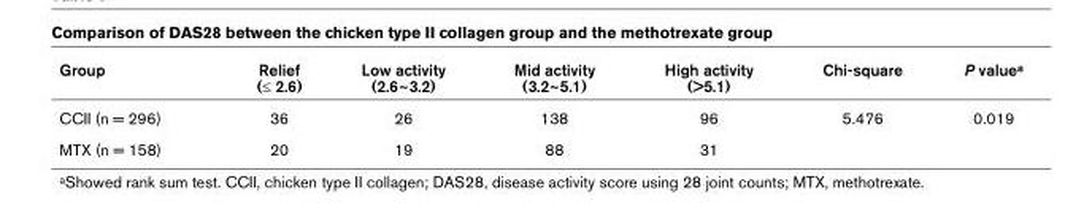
<table><thead><tr><td>Group</td><td>Relief (≤ 2.6)</td><td>Low activity (2.6~3.2)</td><td>Mid activity (3.2~5.1)</td><td>High activity (&gt;5.1)</td><td>Chi-square</td><td>P value<sup>a</sup></td></tr></thead><tbody><tr><td>CCII (n = 296)</td><td>36</td><td>26</td><td>138</td><td>96</td><td>5.476</td><td>0.019</td></tr><tr><td>MTX (n = 158)</td><td>20</td><td>19</td><td>88</td><td>31</td><td></td><td></td></tr></tbody></table>